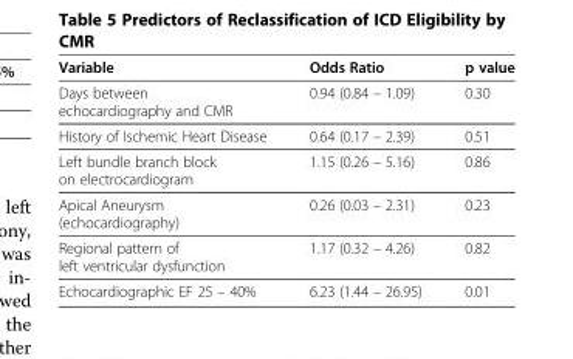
<table><thead><tr><td>Variable</td><td>Odds Ratio</td><td>p value</td></tr></thead><tbody><tr><td>Days between echocardiography and CMR</td><td>0.94 (0.84 – 1.09)</td><td>0.30</td></tr><tr><td>History of Ischemic Heart Disease</td><td>0.64 (0.17 – 2.39)</td><td>0.51</td></tr><tr><td>Left bundle branch block on electrocardiogram</td><td>1.15 (0.26 – 5.16)</td><td>0.86</td></tr><tr><td>Apical Aneurysm (echocardiography)</td><td>0.26 (0.03 – 2.31)</td><td>0.23</td></tr><tr><td>Regional pattern of left ventricular dysfunction</td><td>1.17 (0.32 – 4.26)</td><td>0.82</td></tr><tr><td>Echocardiographic EF 25 – 40%</td><td>6.23 (1.44 – 26.95)</td><td>0.01</td></tr></tbody></table>